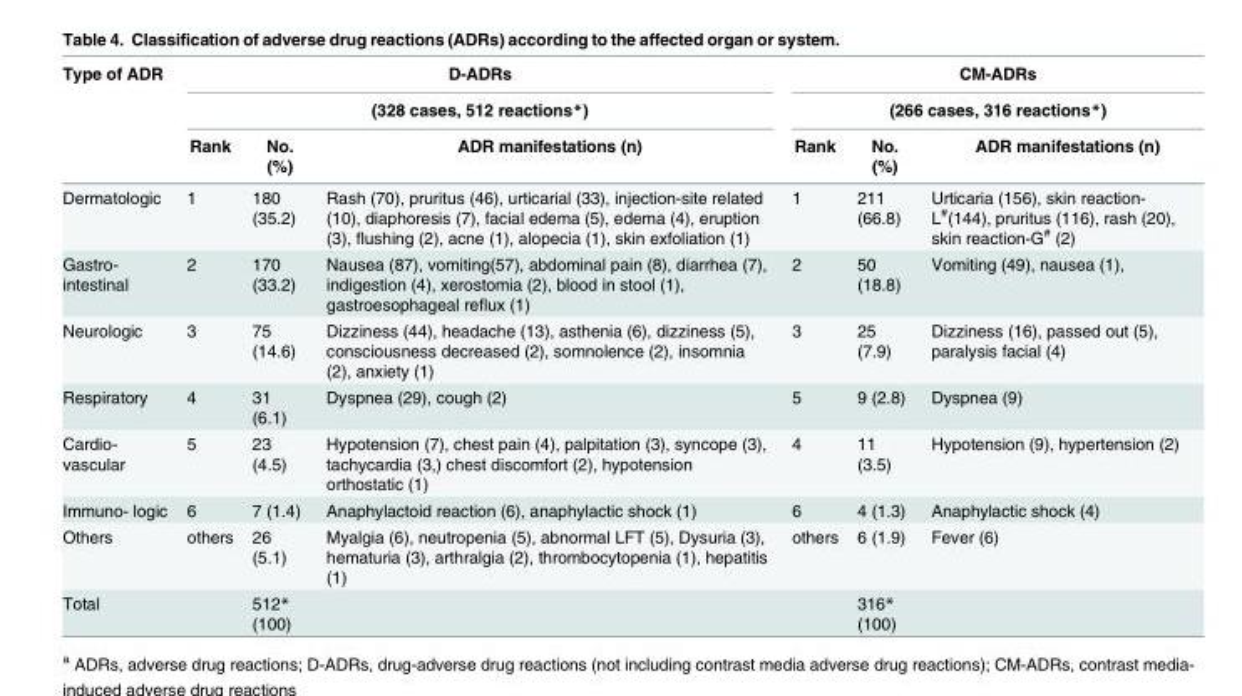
<table><thead><tr><td rowspan="3">Type of ADR</td><td rowspan="2" colspan="3">D-ADRs (328 cases, 512 reactions*)</td><td rowspan="2" colspan="3">CM-ADRs (266 cases, 316 reactions*)</td></tr><tr></tr><tr><td>Rank</td><td>No. (%)</td><td>ADR manifestations (n)</td><td>Rank</td><td>No. (%)</td><td>ADR manifestations (n)</td></tr></thead><tbody><tr><td>Dermatologic</td><td>1</td><td>180 (35.2)</td><td>Rash (70), pruritus (46), urticarial (33), injection-site related (10), diaphoresis (7), facial edema (5), edema (4), eruption (3), flushing (2), acne (1), alopecia (1), skin exfoliation (1)</td><td>1</td><td>211 (66.8)</td><td>Urticaria (156), skin reaction- L<sup>#</sup>(144), pruritus (116), rash (20), skin reaction-G<sup>#</sup> (2)</td></tr><tr><td>Gastro- intestinal</td><td>2</td><td>170 (33.2)</td><td>Nausea (87), vomiting(57), abdominal pain (8), diarrhea (7), indigestion (4), xerostomia (2), blood in stool (1), gastroesophageal reflux (1)</td><td>2</td><td>50 (18.8)</td><td>Vomiting (49), nausea (1),</td></tr><tr><td>Neurologic</td><td>3</td><td>75 (14.6)</td><td>Dizziness (44), headache (13), asthenia (6), dizziness (5), consciousness decreased (2), somnolence (2), insomnia (2), anxiety (1)</td><td>3</td><td>25 (7.9)</td><td>Dizziness (16), passed out (5), paralysis facial (4)</td></tr><tr><td>Respiratory</td><td>4</td><td>31 (6.1)</td><td>Dyspnea (29), cough (2)</td><td>5</td><td>9 (2.8)</td><td>Dyspnea (9)</td></tr><tr><td>Cardio- vascular</td><td>5</td><td>23 (4.5)</td><td>Hypotension (7), chest pain (4), palpitation (3), syncope (3), tachycardia (3,) chest discomfort (2), hypotension orthostatic (1)</td><td>4</td><td>11 (3.5)</td><td>Hypotension (9), hypertension (2)</td></tr><tr><td>Immuno- logic</td><td>6</td><td>7 (1.4)</td><td>Anaphylactoid reaction (6), anaphylactic shock (1)</td><td>6</td><td>4 (1.3)</td><td>Anaphylactic shock (4)</td></tr><tr><td>Others</td><td>others</td><td>26 (5.1)</td><td>Myalgia (6), neutropenia (5), abnormal LFT (5), Dysuria (3), hematuria (3), arthralgia (2), thrombocytopenia (1), hepatitis (1)</td><td>others</td><td>6 (1.9)</td><td>Fever (6)</td></tr><tr><td>Total</td><td></td><td>512* (100)</td><td></td><td></td><td>316* (100)</td><td></td></tr></tbody></table>